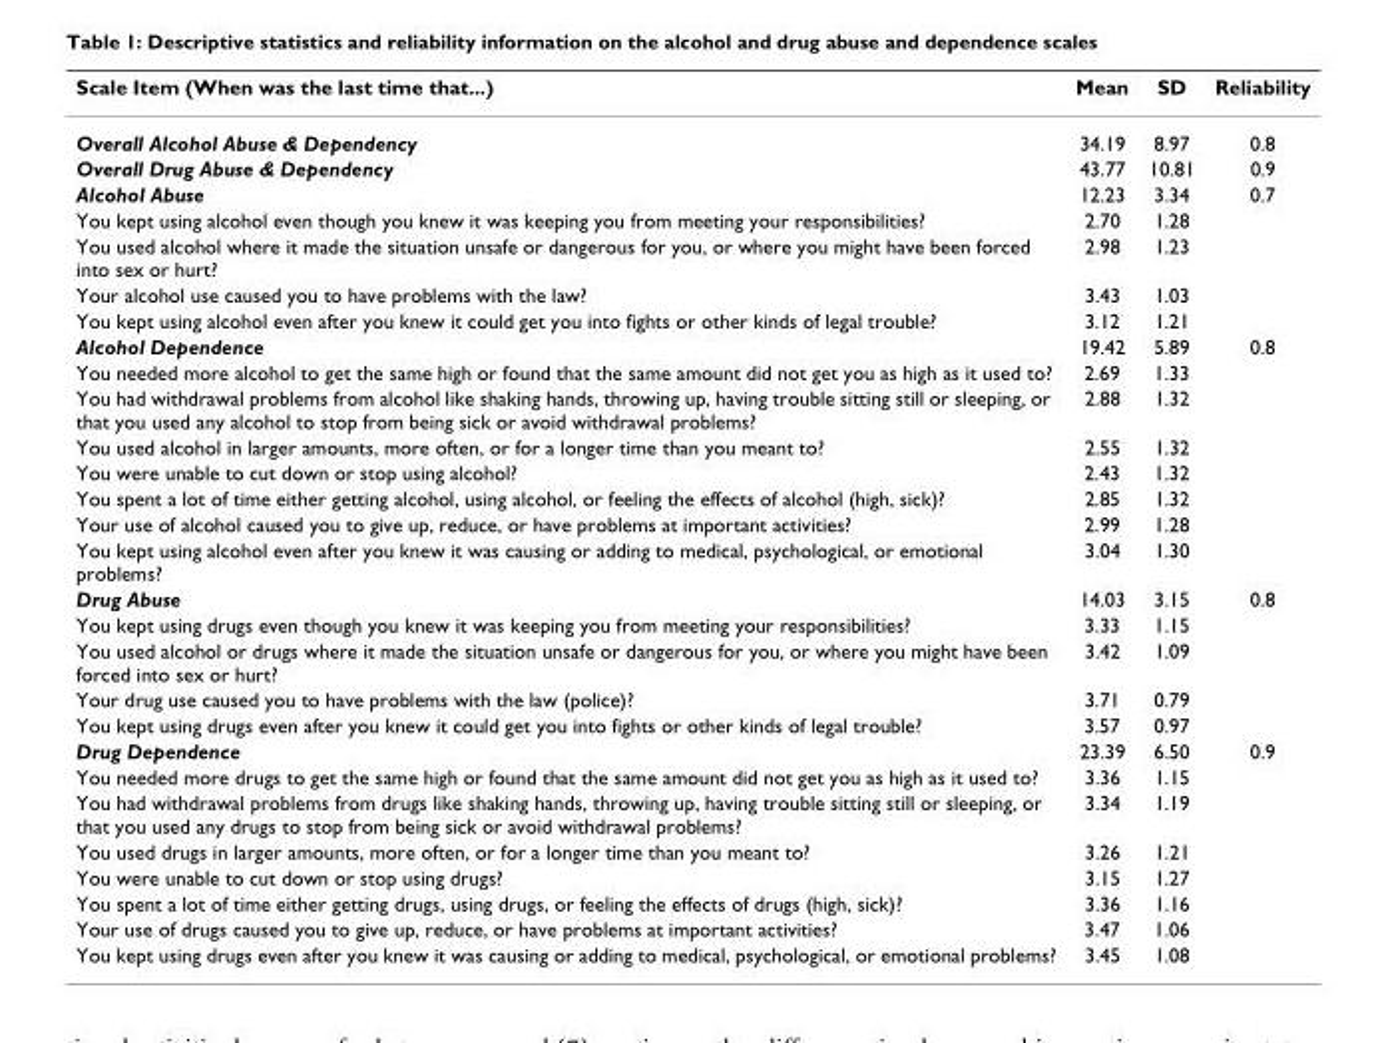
<table><thead><tr><td>Scale Item (When was the last time that...)</td><td>Mean</td><td>SD</td><td>Reliability</td></tr></thead><tbody><tr><td>Overall Alcohol Abuse &amp; Dependency</td><td>34.19</td><td>8.97</td><td>0.8</td></tr><tr><td>Overall Drug Abuse &amp; Dependency</td><td>43.77</td><td>10.81</td><td>0.9</td></tr><tr><td>Alcohol Abuse</td><td>12.23</td><td>3.34</td><td>0.7</td></tr><tr><td>You kept using alcohol even though you knew it was keeping you from meeting your responsibilities?</td><td>2.70</td><td>1.28</td><td></td></tr><tr><td>You used alcohol where it made the situation unsafe or dangerous for you, or where you might have been forced into sex or hurt?</td><td>2.98</td><td>1.23</td><td></td></tr><tr><td>Your alcohol use caused you to have problems with the law?</td><td>3.43</td><td>1.03</td><td></td></tr><tr><td>You kept using alcohol even after you knew it could get you into fights or other kinds of legal trouble?</td><td>3.12</td><td>1.21</td><td></td></tr><tr><td>Alcohol Dependence</td><td>19.42</td><td>5.89</td><td>0.8</td></tr><tr><td>You needed more alcohol to get the same high or found that the same amount did not get you as high as it used to?</td><td>2.69</td><td>1.33</td><td></td></tr><tr><td>You had withdrawal problems from alcohol like shaking hands, throwing up, having trouble sitting still or sleeping, or that you used any alcohol to stop from being sick or avoid withdrawal problems?</td><td>2.88</td><td>1.32</td><td></td></tr><tr><td>You used alcohol in larger amounts, more often, or for a longer time than you meant to?</td><td>2.55</td><td>1.32</td><td></td></tr><tr><td>You were unable to cut down or stop using alcohol?</td><td>2.43</td><td>1.32</td><td></td></tr><tr><td>You spent a lot of time either getting alcohol, using alcohol, or feeling the effects of alcohol (high, sick)?</td><td>2.85</td><td>1.32</td><td></td></tr><tr><td>Your use of alcohol caused you to give up, reduce, or have problems at important activities?</td><td>2.99</td><td>1.28</td><td></td></tr><tr><td>You kept using alcohol even after you knew it was causing or adding to medical, psychological, or emotional problems?</td><td>3.04</td><td>1.30</td><td></td></tr><tr><td>Drug Abuse</td><td>14.03</td><td>3.15</td><td>0.8</td></tr><tr><td>You kept using drugs even though you knew it was keeping you from meeting your responsibilities?</td><td>3.33</td><td>1.15</td><td></td></tr><tr><td>You used alcohol or drugs where it made the situation unsafe or dangerous for you, or where you might have been forced into sex or hurt?</td><td>3.42</td><td>1.09</td><td></td></tr><tr><td>Your drug use caused you to have problems with the law (police)?</td><td>3.71</td><td>0.79</td><td></td></tr><tr><td>You kept using drugs even after you knew it could get you into fights or other kinds of legal trouble?</td><td>3.57</td><td>0.97</td><td></td></tr><tr><td>Drug Dependence</td><td>23.39</td><td>6.50</td><td>0.9</td></tr><tr><td>You needed more drugs to get the same high or found that the same amount did not get you as high as it used to?</td><td>3.36</td><td>1.15</td><td></td></tr><tr><td>You had withdrawal problems from drugs like shaking hands, throwing up, having trouble sitting still or sleeping, or that you used any drugs to stop from being sick or avoid withdrawal problems?</td><td>3.34</td><td>1.19</td><td></td></tr><tr><td>You used drugs in larger amounts, more often, or for a longer time than you meant to?</td><td>3.26</td><td>1.21</td><td></td></tr><tr><td>You were unable to cut down or stop using drugs?</td><td>3.15</td><td>1.27</td><td></td></tr><tr><td>You spent a lot of time either getting drugs, using drugs, or feeling the effects of drugs (high, sick)?</td><td>3.36</td><td>1.16</td><td></td></tr><tr><td>Your use of drugs caused you to give up, reduce, or have problems at important activities?</td><td>3.47</td><td>1.06</td><td></td></tr><tr><td>You kept using drugs even after you knew it was causing or adding to medical, psychological, or emotional problems?</td><td>3.45</td><td>1.08</td><td></td></tr></tbody></table>